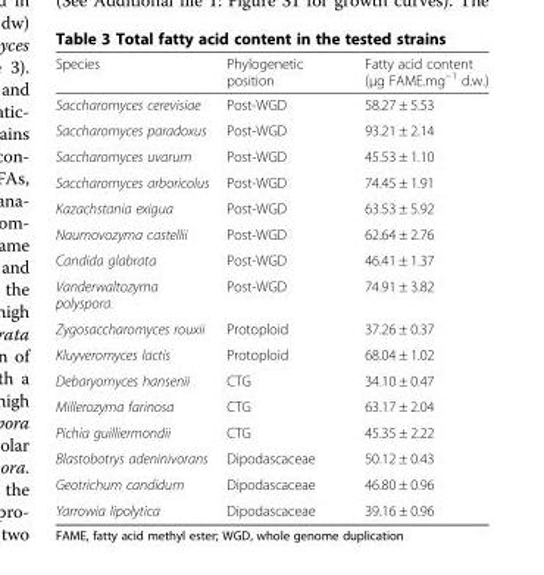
<table><thead><tr><td>Species</td><td>Phylogenetic position</td><td>Fatty acid content (μg FAME.mg<sup>−1</sup> d.w.)</td></tr></thead><tbody><tr><td>Saccharomyces cerevisiae</td><td>Post-WGD</td><td>58.27 ± 5.53</td></tr><tr><td>Saccharomyces paradoxus</td><td>Post-WGD</td><td>93.21 ± 2.14</td></tr><tr><td>Saccharomyces uvarum</td><td>Post-WGD</td><td>45.53 ± 1.10</td></tr><tr><td>Saccharomyces arboricolus</td><td>Post-WGD</td><td>74.45 ± 1.91</td></tr><tr><td>Kazachstania exigua</td><td>Post-WGD</td><td>63.53 ± 5.92</td></tr><tr><td>Naumovozyma castellii</td><td>Post-WGD</td><td>62.64 ± 2.76</td></tr><tr><td>Candida glabrata</td><td>Post-WGD</td><td>46.41 ± 1.37</td></tr><tr><td>Vanderwaltozyma polyspora</td><td>Post-WGD</td><td>74.91 ± 3.82</td></tr><tr><td>Zygosaccharomyces rouxii</td><td>Protoploid</td><td>37.26 ± 0.37</td></tr><tr><td>Kluyveromyces lactis</td><td>Protoploid</td><td>68.04 ± 1.02</td></tr><tr><td>Debaryomyces hansenii</td><td>CTG</td><td>34.10 ± 0.47</td></tr><tr><td>Millerozyma farinosa</td><td>CTG</td><td>63.17 ± 2.04</td></tr><tr><td>Pichia guilliermondii</td><td>CTG</td><td>45.35 ± 2.22</td></tr><tr><td>Blastobotrys adeninivorans</td><td>Dipodascaceae</td><td>50.12 ± 0.43</td></tr><tr><td>Geotrichum candidum</td><td>Dipodascaceae</td><td>46.80 ± 0.96</td></tr><tr><td>Yarrowia lipolytica</td><td>Dipodascaceae</td><td>39.16 ± 0.96</td></tr></tbody></table>